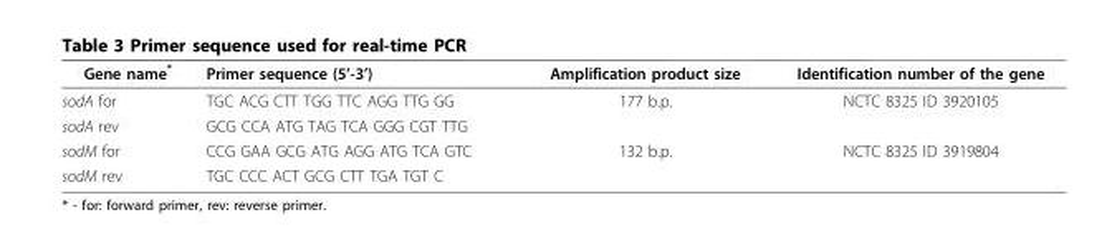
<table><thead><tr><td>Gene name*</td><td>Primer sequence (5’-3’)</td><td>Amplification product size</td><td>Identification number of the gene</td></tr></thead><tbody><tr><td>sodA for</td><td>TGC ACG CTT TGG TTC AGG TTG GG</td><td>177 b.p.</td><td>NCTC 8325 ID 3920105</td></tr><tr><td>sodA rev</td><td>GCG CCA ATG TAG TCA GGG CGT TTG</td><td></td><td></td></tr><tr><td>sodM for</td><td>CCG GAA GCG ATG AGG ATG TCA GTC</td><td>132 b.p.</td><td>NCTC 8325 ID 3919804</td></tr><tr><td>sodM rev</td><td>TGC CCC ACT GCG CTT TGA TGT C</td><td></td><td></td></tr></tbody></table>